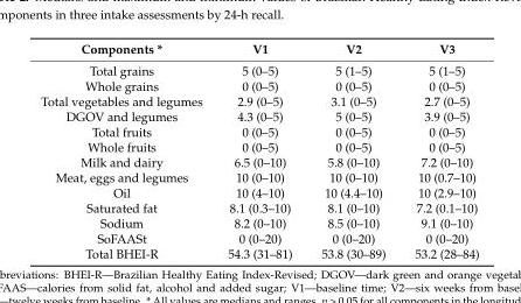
<table><thead><tr><td>Components *</td><td>V1</td><td>V2</td><td>V3</td></tr></thead><tbody><tr><td>Total grains</td><td>5 (0–5)</td><td>5 (1–5)</td><td>5 (1–5)</td></tr><tr><td>Whole grains</td><td>0 (0–5)</td><td>0 (0–5)</td><td>0 (0–5)</td></tr><tr><td>Total vegetables and legumes</td><td>2.9 (0–5)</td><td>3.1 (0–5)</td><td>2.7 (0–5)</td></tr><tr><td>DGOV and legumes</td><td>4.3 (0–5)</td><td>5 (0–5)</td><td>3.9 (0–5)</td></tr><tr><td>Total fruits</td><td>0 (0–5)</td><td>0 (0–5)</td><td>0 (0–5)</td></tr><tr><td>Whole fruits</td><td>0 (0–5)</td><td>0 (0–5)</td><td>0 (0–5)</td></tr><tr><td>Milk and dairy</td><td>6.5 (0–10)</td><td>5.8 (0–10)</td><td>7.2 (0–10)</td></tr><tr><td>Meat, eggs and legumes</td><td>10 (0–10)</td><td>10 (0–10)</td><td>10 (0.7–10)</td></tr><tr><td>Oil</td><td>10 (4–10)</td><td>10 (4.4–10)</td><td>10 (2.9–10)</td></tr><tr><td>Saturated fat</td><td>8.1 (0.3–10)</td><td>8.1 (0–10)</td><td>7.2 (0.1–10)</td></tr><tr><td>Sodium</td><td>8.2 (0–10)</td><td>8.5 (0–10)</td><td>9.1 (0–10)</td></tr><tr><td>SoFAASt</td><td>0 (0–20)</td><td>0 (0–20)</td><td>0 (0–20)</td></tr><tr><td>Total BHEI-R</td><td>54.3 (31–81)</td><td>53.8 (30–89)</td><td>53.2 (28–84)</td></tr></tbody></table>